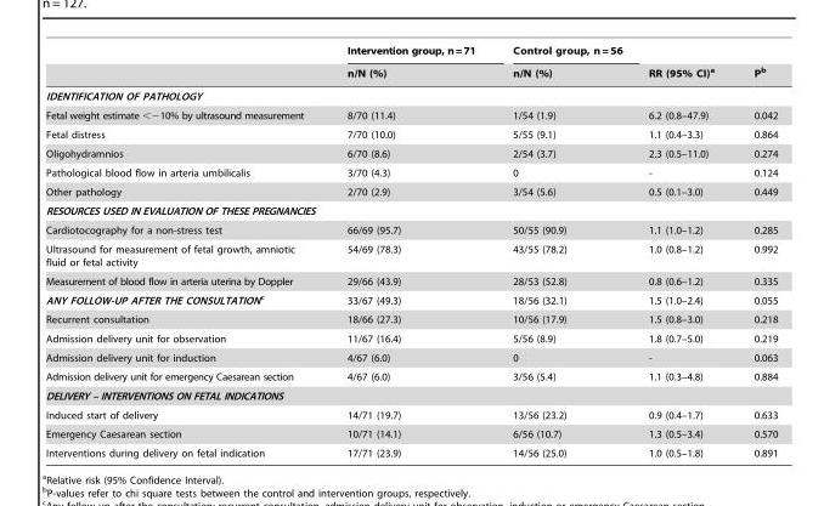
<table><thead><tr><td rowspan="2"></td><td rowspan="2">Intervention group, n=71 n/N (%)</td><td rowspan="2">Control group, n = 56 n/N (%)</td><td rowspan="2">RR (95% CI)<sup>a</sup></td><td rowspan="2">P<sup>b</sup></td></tr><tr></tr></thead><tbody><tr><td colspan="5">IDENTIFICATION OF PATHOLOGY</td></tr><tr><td>Fetal weight estimate &lt;−10% by ultrasound measurement</td><td>8/70 (11.4)</td><td>1/54 (1.9)</td><td>6.2 (0.8–47.9)</td><td>0.042</td></tr><tr><td>Fetal distress</td><td>7/70 (10.0)</td><td>5/55 (9.1)</td><td>1.1 (0.4–3.3)</td><td>0.864</td></tr><tr><td>Oligohydramnios</td><td>6/70 (8.6)</td><td>2/54 (3.7)</td><td>2.3 (0.5–11.0)</td><td>0.274</td></tr><tr><td>Pathological blood flow in arteria umbilicalis</td><td>3/70 (4.3)</td><td>0</td><td>-</td><td>0.124</td></tr><tr><td>Other pathology</td><td>2/70 (2.9)</td><td>3/54 (5.6)</td><td>0.5 (0.1–3.0)</td><td>0.449</td></tr><tr><td colspan="5">RESOURCES USED IN EVALUATION OF THESE PREGNANCIES</td></tr><tr><td>Cardiotocography for a non-stress test</td><td>66/69 (95.7)</td><td>50/55 (90.9)</td><td>1.1 (1.0–1.2)</td><td>0.285</td></tr><tr><td>Ultrasound for measurement of fetal growth, amniotic fluid or fetal activity</td><td>54/69 (78.3)</td><td>43/55 (78.2)</td><td>1.0 (0.8–1.2)</td><td>0.992</td></tr><tr><td>Measurement of blood flow in arteria uterina by Doppler</td><td>29/66 (43.9)</td><td>28/53 (52.8)</td><td>0.8 (0.6–1.2)</td><td>0.335</td></tr><tr><td>ANY FOLLOW-UP AFTER THE CONSULTATIONc</td><td>33/67 (49.3)</td><td>18/56 (32.1)</td><td>1.5 (1.0–2.4)</td><td>0.055</td></tr><tr><td>Recurrent consultation</td><td>18/66 (27.3)</td><td>10/56 (17.9)</td><td>1.5 (0.8–3.0)</td><td>0.218</td></tr><tr><td>Admission delivery unit for observation</td><td>11/67 (16.4)</td><td>5/56 (8.9)</td><td>1.8 (0.7–5.0)</td><td>0.219</td></tr><tr><td>Admission delivery unit for induction</td><td>4/67 (6.0)</td><td>0</td><td>-</td><td>0.063</td></tr><tr><td>Admission delivery unit for emergency Caesarean section</td><td>4/67 (6.0)</td><td>3/56 (5.4)</td><td>1.1 (0.3–4.8)</td><td>0.884</td></tr><tr><td colspan="5">DELIVERY – INTERVENTIONS ON FETAL INDICATIONS</td></tr><tr><td>Induced start of delivery</td><td>14/71 (19.7)</td><td>13/56 (23.2)</td><td>0.9 (0.4–1.7)</td><td>0.633</td></tr><tr><td>Emergency Caesarean section</td><td>10/71 (14.1)</td><td>6/56 (10.7)</td><td>1.3 (0.5–3.4)</td><td>0.570</td></tr><tr><td>Interventions during delivery on fetal indication</td><td>17/71 (23.9)</td><td>14/56 (25.0)</td><td>1.0 (0.5–1.8)</td><td>0.891</td></tr></tbody></table>